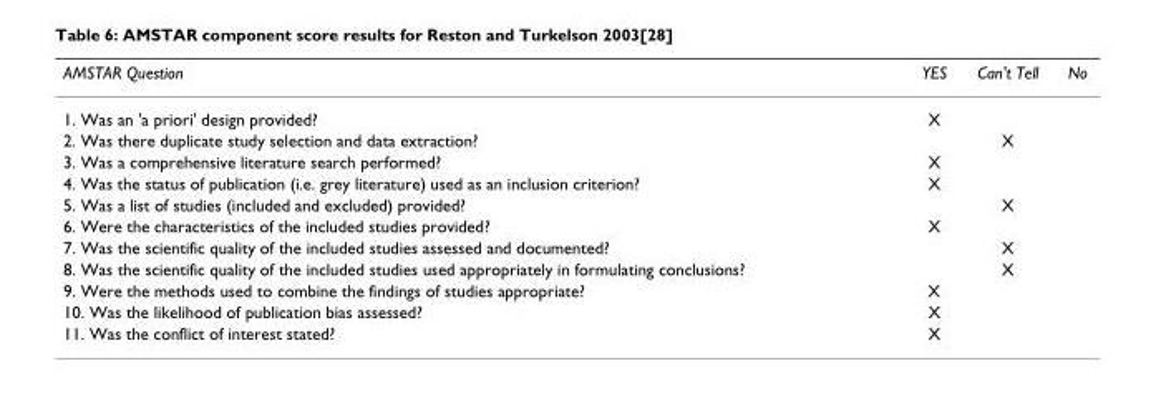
<table><thead><tr><td>AMSTAR Question</td><td>YES</td><td>Can&#x27;t Tell</td><td>No</td></tr></thead><tbody><tr><td>1. Was an &#x27;a priori&#x27; design provided?</td><td>X</td><td></td><td></td></tr><tr><td>2. Was there duplicate study selection and data extraction?</td><td></td><td>X</td><td></td></tr><tr><td>3. Was a comprehensive literature search performed?</td><td>X</td><td></td><td></td></tr><tr><td>4. Was the status of publication (i.e. grey literature) used as an inclusion criterion?</td><td>X</td><td></td><td></td></tr><tr><td>5. Was a list of studies (included and excluded) provided?</td><td></td><td>X</td><td></td></tr><tr><td>6. Were the characteristics of the included studies provided?</td><td>X</td><td></td><td></td></tr><tr><td>7. Was the scientific quality of the included studies assessed and documented?</td><td></td><td>X</td><td></td></tr><tr><td>8. Was the scientific quality of the included studies used appropriately in formulating conclusions?</td><td></td><td>X</td><td></td></tr><tr><td>9. Were the methods used to combine the findings of studies appropriate?</td><td>X</td><td></td><td></td></tr><tr><td>10. Was the likelihood of publication bias assessed?</td><td>X</td><td></td><td></td></tr><tr><td>11. Was the conflict of interest stated?</td><td>X</td><td></td><td></td></tr></tbody></table>